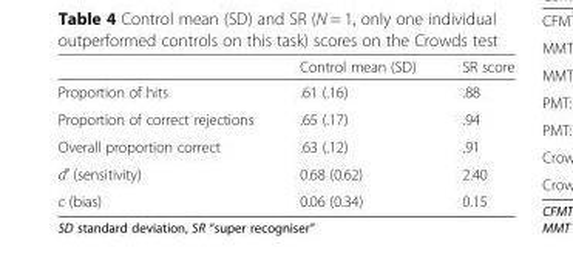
<table><thead><tr><td></td><td>Control mean (SD)</td><td>SR score</td></tr></thead><tbody><tr><td>Proportion of hits</td><td>.61 (.16)</td><td>.88</td></tr><tr><td>Proportion of correct rejections</td><td>.65 (.17)</td><td>.94</td></tr><tr><td>Overall proportion correct</td><td>.63 (.12)</td><td>.91</td></tr><tr><td>d′ (sensitivity)</td><td>0.68 (0.62)</td><td>2.40</td></tr><tr><td>c (bias)</td><td>0.06 (0.34)</td><td>0.15</td></tr></tbody></table>